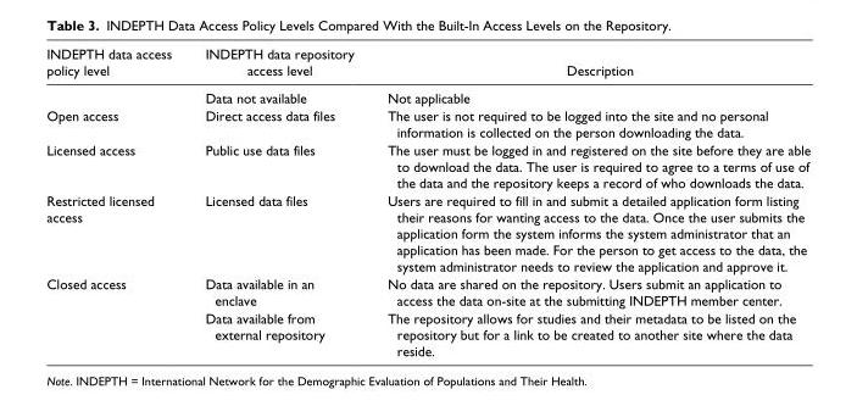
<table><thead><tr><td>INDEPTH data access policy level</td><td>INDEPTH data repository access level</td><td>Description</td></tr></thead><tbody><tr><td></td><td>Data not available</td><td>Not applicable</td></tr><tr><td>Open access</td><td>Direct access data files</td><td>The user is not required to be logged into the site and no personal information is collected on the person downloading the data.</td></tr><tr><td>Licensed access</td><td>Public use data files</td><td>The user must be logged in and registered on the site before they are able to download the data. The user is required to agree to a terms of use of the data and the repository keeps a record of who downloads the data.</td></tr><tr><td>Restricted licensed access</td><td>Licensed data files</td><td>Users are required to fill in and submit a detailed application form listing their reasons for wanting access to the data. Once the user submits the application form the system informs the system administrator that an application has been made. For the person to get access to the data, the system administrator needs to review the application and approve it.</td></tr><tr><td rowspan="2">Closed access</td><td>Data available in an enclave</td><td>No data are shared on the repository. Users submit an application to access the data on-site at the submitting INDEPTH member center.</td></tr><tr><td>Data available from external repository</td><td>The repository allows for studies and their metadata to be listed on the repository but for a link to be created to another site where the data reside.</td></tr></tbody></table>